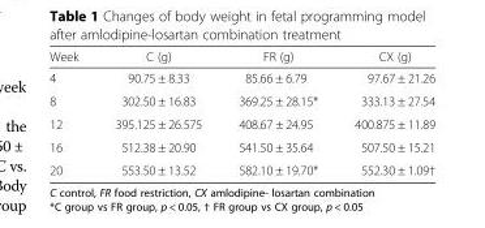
<table><thead><tr><td>Week</td><td>C (g)</td><td>FR (g)</td><td>CX (g)</td></tr></thead><tbody><tr><td>4</td><td>90.75 ± 8.33</td><td>85.66 ± 6.79</td><td>97.67 ± 21.26</td></tr><tr><td>8</td><td>302.50 ± 16.83</td><td>369.25 ± 28.15*</td><td>333.13 ± 27.54</td></tr><tr><td>12</td><td>395.125 ± 26.575</td><td>408.67 ± 24.95</td><td>400.875 ± 11.89</td></tr><tr><td>16</td><td>512.38 ± 20.90</td><td>541.50 ± 35.64</td><td>507.50 ± 15.21</td></tr><tr><td>20</td><td>553.50 ± 13.52</td><td>582.10 ± 19.70*</td><td>552.30 ± 1.09†</td></tr></tbody></table>